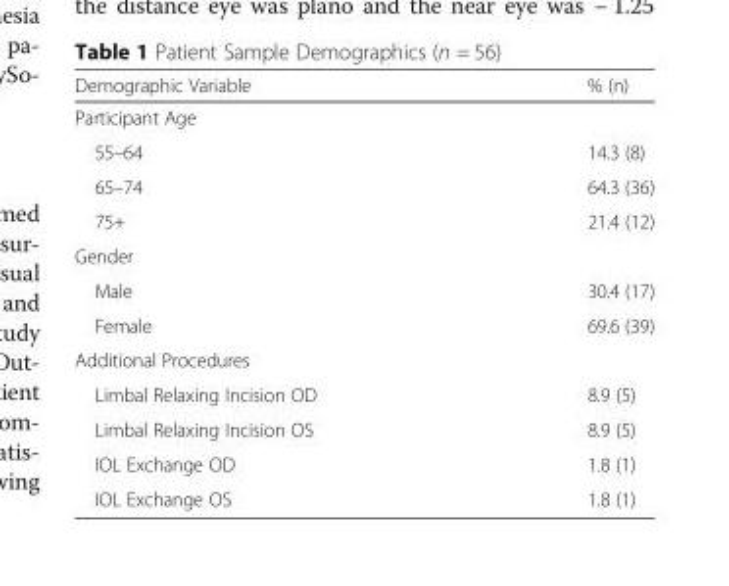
<table><thead><tr><td>Demographic Variable</td><td>% (n)</td></tr></thead><tbody><tr><td colspan="2">Participant Age</td></tr><tr><td>55–64</td><td>14.3 (8)</td></tr><tr><td>65–74</td><td>64.3 (36)</td></tr><tr><td>75+</td><td>21.4 (12)</td></tr><tr><td colspan="2">Gender</td></tr><tr><td>Male</td><td>30.4 (17)</td></tr><tr><td>Female</td><td>69.6 (39)</td></tr><tr><td colspan="2">Additional Procedures</td></tr><tr><td>Limbal Relaxing Incision OD</td><td>8.9 (5)</td></tr><tr><td>Limbal Relaxing Incision OS</td><td>8.9 (5)</td></tr><tr><td>IOL Exchange OD</td><td>1.8 (1)</td></tr><tr><td>IOL Exchange OS</td><td>1.8 (1)</td></tr></tbody></table>